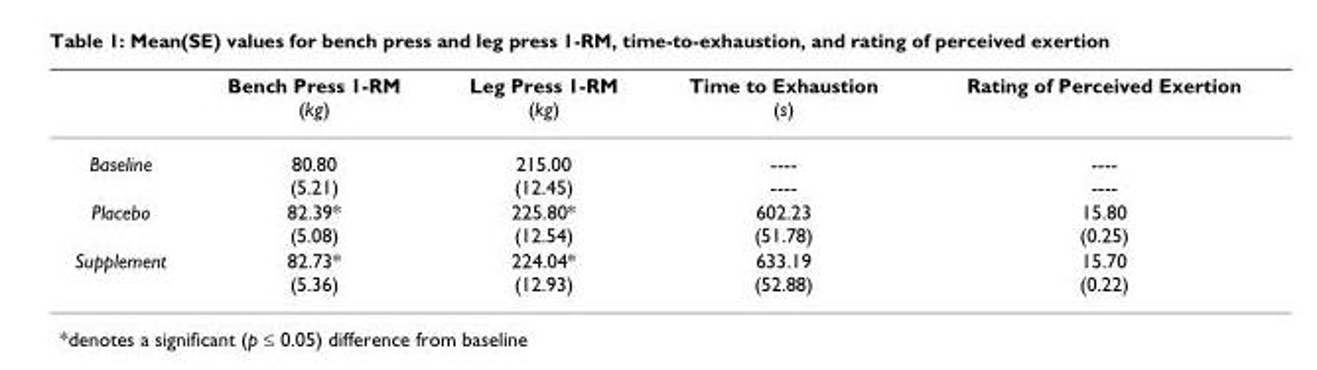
<table><thead><tr><td></td><td>Bench Press 1-RM (kg)</td><td>Leg Press 1-RM (kg)</td><td>Time to Exhaustion (s)</td><td>Rating of Perceived Exertion</td></tr></thead><tbody><tr><td>Baseline</td><td>80.80 (5.21)</td><td>215.00 (12.45)</td><td>---- ----</td><td>---- ----</td></tr><tr><td>Placebo</td><td>82.39* (5.08)</td><td>225.80* (12.54)</td><td>602.23 (51.78)</td><td>15.80 (0.25)</td></tr><tr><td>Supplement</td><td>82.73* (5.36)</td><td>224.04* (12.93)</td><td>633.19 (52.88)</td><td>15.70 (0.22)</td></tr></tbody></table>